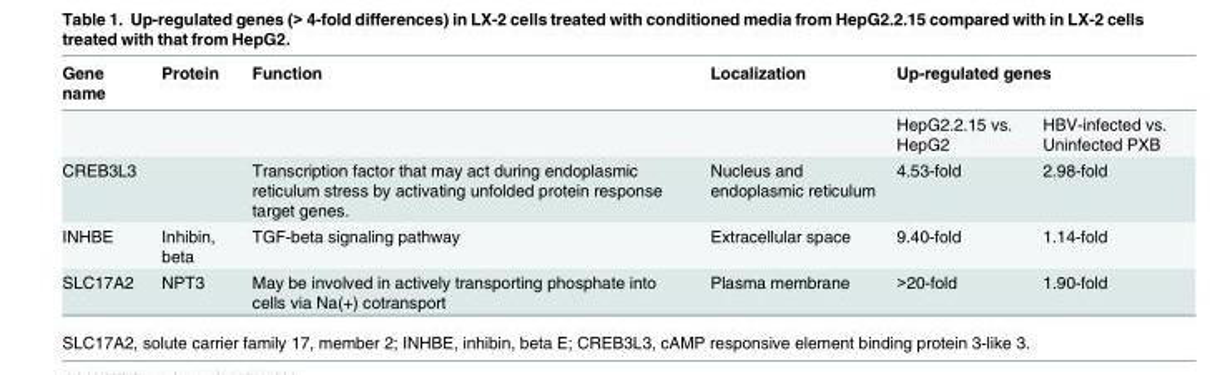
<table><thead><tr><td rowspan="2">Gene name</td><td rowspan="2">Protein</td><td rowspan="2">Function</td><td rowspan="2">Localization</td><td colspan="2">Up-regulated genes</td></tr><tr><td>HepG2.2.15 vs. HepG2</td><td>HBV-infected vs. Uninfected PXB</td></tr></thead><tbody><tr><td>CREB3L3</td><td></td><td>Transcription factor that may act during endoplasmic reticulum stress by activating unfolded protein response target genes.</td><td>Nucleus and endoplasmic reticulum</td><td>4.53-fold</td><td>2.98-fold</td></tr><tr><td>INHBE</td><td>Inhibin, beta</td><td>TGF-beta signaling pathway</td><td>Extracellular space</td><td>9.40-fold</td><td>1.14-fold</td></tr><tr><td>SLC17A2</td><td>NPT3</td><td>May be involved in actively transporting phosphate into cells via Na(+) cotransport</td><td>Plasma membrane</td><td>&gt;20-fold</td><td>1.90-fold</td></tr></tbody></table>